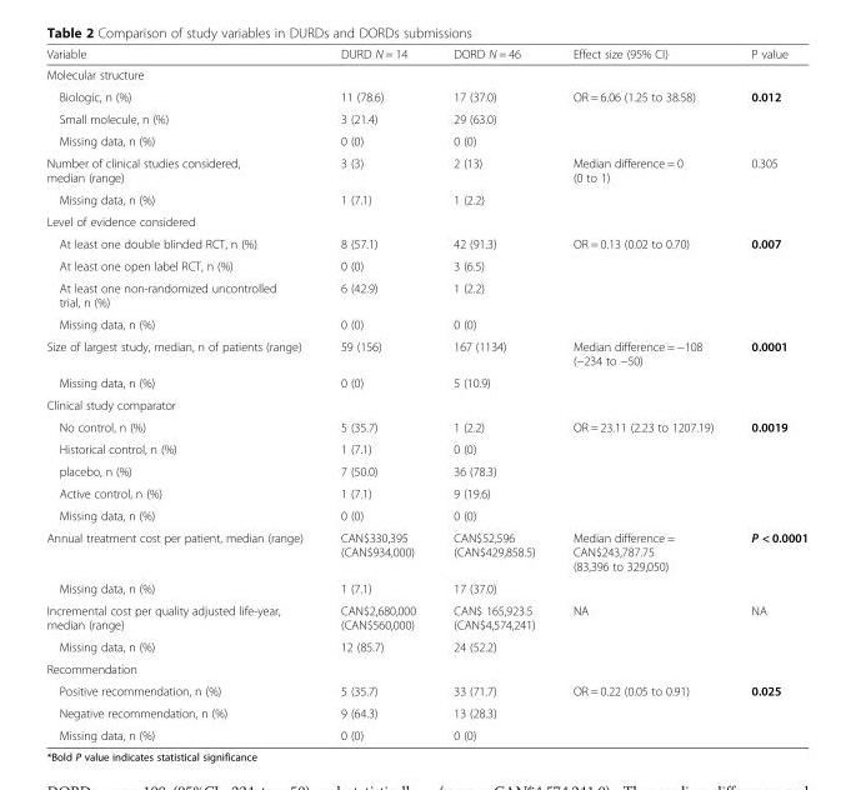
<table><thead><tr><td>Variable</td><td>DURD N = 14</td><td>DORD N = 46</td><td>Effect size (95% CI)</td><td>P value</td></tr></thead><tbody><tr><td colspan="5">Molecular structure</td></tr><tr><td>Biologic, n (%)</td><td>11 (78.6)</td><td>17 (37.0)</td><td>OR = 6.06 (1.25 to 38.58)</td><td>0.012</td></tr><tr><td>Small molecule, n (%)</td><td>3 (21.4)</td><td>29 (63.0)</td><td></td><td></td></tr><tr><td>Missing data, n (%)</td><td>0 (0)</td><td>0 (0)</td><td></td><td></td></tr><tr><td>Number of clinical studies considered, median (range)</td><td>3 (3)</td><td>2 (13)</td><td>Median difference = 0 (0 to 1)</td><td>0.305</td></tr><tr><td>Missing data, n (%)</td><td>1 (7.1)</td><td>1 (2.2)</td><td></td><td></td></tr><tr><td colspan="5">Level of evidence considered</td></tr><tr><td>At least one double blinded RCT, n (%)</td><td>8 (57.1)</td><td>42 (91.3)</td><td>OR = 0.13 (0.02 to 0.70)</td><td>0.007</td></tr><tr><td>At least one open label RCT, n (%)</td><td>0 (0)</td><td>3 (6.5)</td><td></td><td></td></tr><tr><td>At least one non-randomized uncontrolled trial, n (%)</td><td>6 (42.9)</td><td>1 (2.2)</td><td></td><td></td></tr><tr><td>Missing data, n (%)</td><td>0 (0)</td><td>0 (0)</td><td></td><td></td></tr><tr><td>Size of largest study, median, n of patients (range)</td><td>59 (156)</td><td>167 (1134)</td><td>Median difference = −108 (−234 to −50)</td><td>0.0001</td></tr><tr><td>Missing data, n (%)</td><td>0 (0)</td><td>5 (10.9)</td><td></td><td></td></tr><tr><td colspan="5">Clinical study comparator</td></tr><tr><td>No control, n (%)</td><td>5 (35.7)</td><td>1 (2.2)</td><td>OR = 23.11 (2.23 to 1207.19)</td><td>0.0019</td></tr><tr><td>Historical control, n (%)</td><td>1 (7.1)</td><td>0 (0)</td><td></td><td></td></tr><tr><td>placebo, n (%)</td><td>7 (50.0)</td><td>36 (78.3)</td><td></td><td></td></tr><tr><td>Active control, n (%)</td><td>1 (7.1)</td><td>9 (19.6)</td><td></td><td></td></tr><tr><td>Missing data, n (%)</td><td>0 (0)</td><td>0 (0)</td><td></td><td></td></tr><tr><td>Annual treatment cost per patient, median (range)</td><td>CAN$330,395 (CAN$934,000)</td><td>CAN$52,596 (CAN$429,858.5)</td><td>Median difference = CAN$243,787.75 (83,396 to 329,050)</td><td>P &lt; 0.0001</td></tr><tr><td>Missing data, n (%)</td><td>1 (7.1)</td><td>17 (37.0)</td><td></td><td></td></tr><tr><td>Incremental cost per quality adjusted life-year, median (range)</td><td>CAN$2,680,000 (CAN$560,000)</td><td>CAN$ 165,923.5 (CAN$4,574,241)</td><td>NA</td><td>NA</td></tr><tr><td>Missing data, n (%)</td><td>12 (85.7)</td><td>24 (52.2)</td><td></td><td></td></tr><tr><td colspan="5">Recommendation</td></tr><tr><td>Positive recommendation, n (%)</td><td>5 (35.7)</td><td>33 (71.7)</td><td>OR = 0.22 (0.05 to 0.91)</td><td>0.025</td></tr><tr><td>Negative recommendation, n (%)</td><td>9 (64.3)</td><td>13 (28.3)</td><td></td><td></td></tr><tr><td>Missing data, n (%)</td><td>0 (0)</td><td>0 (0)</td><td></td><td></td></tr></tbody></table>